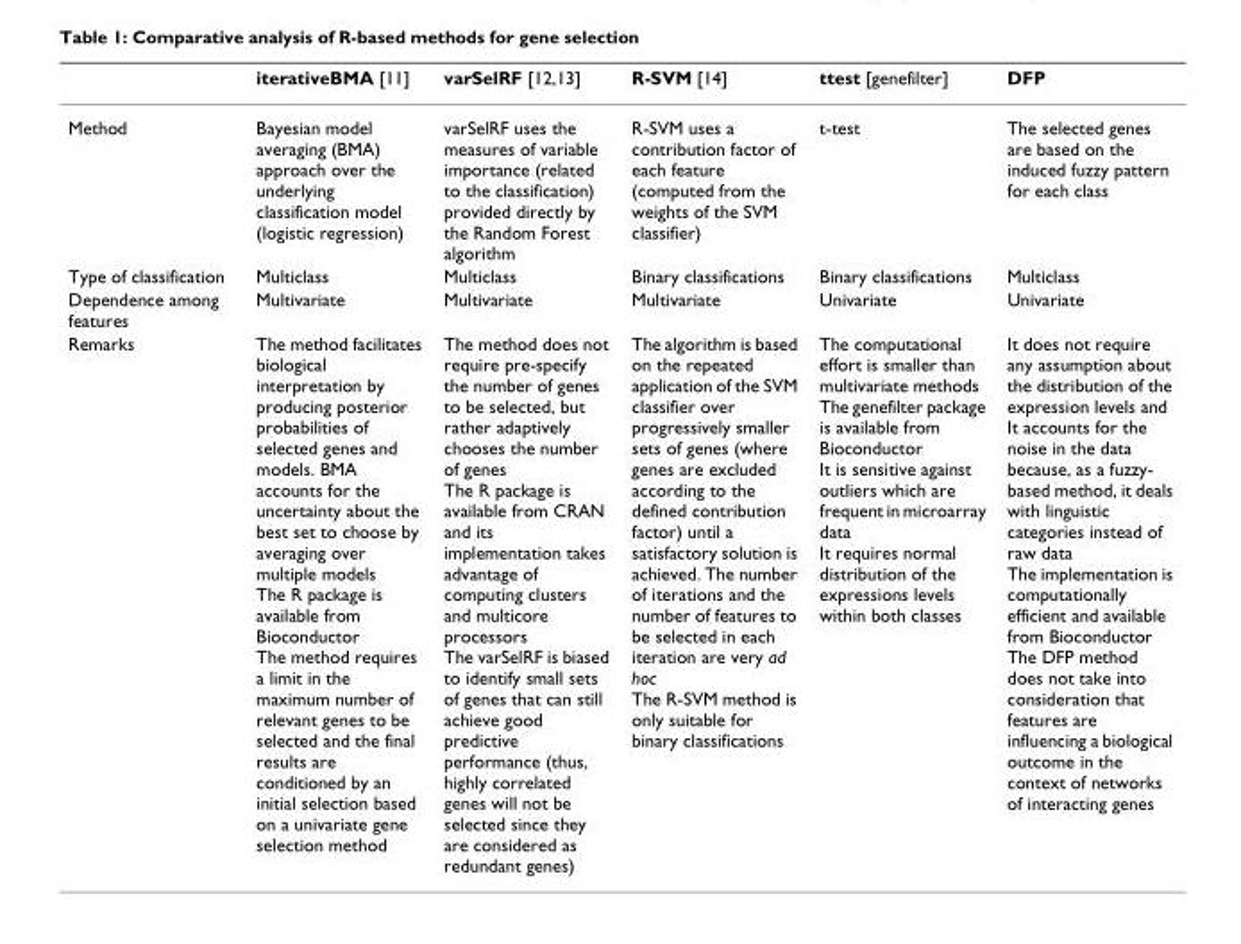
<table><thead><tr><td></td><td>iterativeBMA [11]</td><td>varSelRF [12,13]</td><td>R-SVM [14]</td><td>ttest [genefilter]</td><td>DFP</td></tr></thead><tbody><tr><td>Method</td><td>Bayesian model averaging (BMA) approach over the underlying classification model (logistic regression)</td><td>varSelRF uses the measures of variable importance (related to the classification) provided directly by the Random Forest algorithm</td><td>R-SVM uses a contribution factor of each feature (computed from the weights of the SVM classifier)</td><td>t-test</td><td>The selected genes are based on the induced fuzzy pattern for each class</td></tr><tr><td>Type of classification</td><td>Multiclass</td><td>Multiclass</td><td>Binary classifications</td><td>Binary classifications</td><td>Multiclass</td></tr><tr><td>Dependence among features</td><td>Multivariate</td><td>Multivariate</td><td>Multivariate</td><td>Univariate</td><td>Univariate</td></tr><tr><td>Remarks</td><td>The method facilitates biological interpretation by producing posterior probabilities of selected genes and models. BMA accounts for the uncertainty about the best set to choose by averaging over multiple models The R package is available from Bioconductor The method requires a limit in the maximum number of relevant genes to be selected and the final results are conditioned by an initial selection based on a univariate gene selection method</td><td>The method does not require pre-specify the number of genes to be selected, but rather adaptively chooses the number of genes The R package is available from CRAN and its implementation takes advantage of computing clusters and multicore processors The varSelRF is biased to identify small sets of genes that can still achieve good predictive performance (thus, highly correlated genes will not be selected since they are considered as redundant genes)</td><td>The algorithm is based on the repeated application of the SVM classifier over progressively smaller sets of genes (where genes are excluded according to the defined contribution factor) until a satisfactory solution is achieved. The number of iterations and the number of features to be selected in each iteration are very ad hoc The R-SVM method is only suitable for binary classifications</td><td>The computational effort is smaller than multivariate methods The genefilter package is available from Bioconductor It is sensitive against outliers which are frequent in microarray data It requires normal distribution of the expressions levels within both classes</td><td>It does not require any assumption about the distribution of the expression levels and It accounts for the noise in the data because, as a fuzzy- based method, it deals with linguistic categories instead of raw data The implementation is computationally efficient and available from Bioconductor The DFP method does not take into consideration that features are influencing a biological outcome in the context of networks of interacting genes</td></tr></tbody></table>